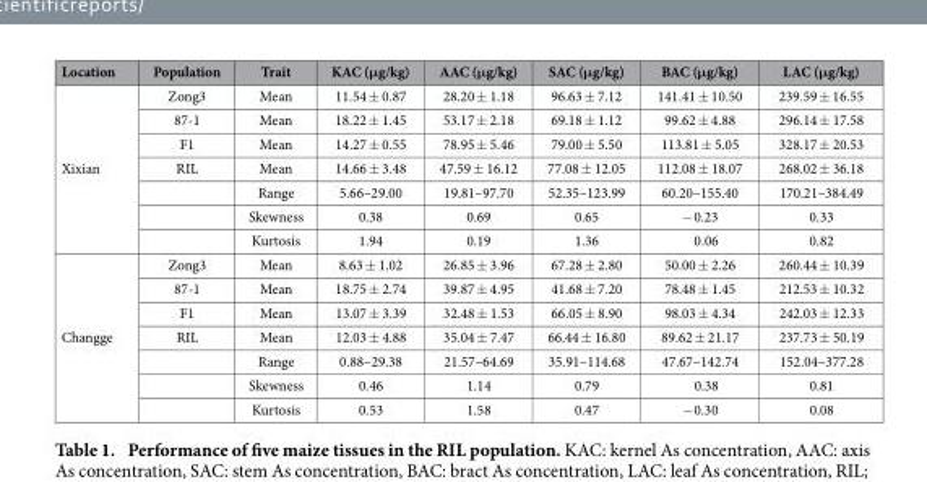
<table><thead><tr><td>Location</td><td>Population</td><td>Trait</td><td>KAC (μg/kg)</td><td>AAC (μg/kg)</td><td>SAC (μg/kg)</td><td>BAC (μg/kg)</td><td>LAC (μg/kg)</td></tr></thead><tbody><tr><td rowspan="7">Xixian</td><td>Zong3</td><td>Mean</td><td>11.54 ± 0.87</td><td>28.20 ± 1.18</td><td>96.63 ± 7.12</td><td>141.41 ± 10.50</td><td>239.59 ± 16.55</td></tr><tr><td>87-1</td><td>Mean</td><td>18.22 ± 1.45</td><td>53.17 ± 2.18</td><td>69.18 ± 1.12</td><td>99.62 ± 4.88</td><td>296.14 ± 17.58</td></tr><tr><td>F1</td><td>Mean</td><td>14.27 ± 0.55</td><td>78.95 ± 5.46</td><td>79.00 ± 5.50</td><td>113.81 ± 5.05</td><td>328.17 ± 20.53</td></tr><tr><td>RIL</td><td>Mean</td><td>14.66 ± 3.48</td><td>47.59 ± 16.12</td><td>77.08 ± 12.05</td><td>112.08 ± 18.07</td><td>268.02 ± 36.18</td></tr><tr><td></td><td>Range</td><td>5.66–29.00</td><td>19.81–97.70</td><td>52.35–123.99</td><td>60.20–155.40</td><td>170.21–384.49</td></tr><tr><td></td><td>Skewness</td><td>0.38</td><td>0.69</td><td>0.65</td><td>− 0.23</td><td>0.33</td></tr><tr><td></td><td>Kurtosis</td><td>1.94</td><td>0.19</td><td>1.36</td><td>0.06</td><td>0.82</td></tr><tr><td rowspan="7">Changge</td><td>Zong3</td><td>Mean</td><td>8.63 ± 1.02</td><td>26.85 ± 3.96</td><td>67.28 ± 2.80</td><td>50.00 ± 2.26</td><td>260.44 ± 10.39</td></tr><tr><td>87-1</td><td>Mean</td><td>18.75 ± 2.74</td><td>39.87 ± 4.95</td><td>41.68 ± 7.20</td><td>78.48 ± 1.45</td><td>212.53 ± 10.32</td></tr><tr><td>F1</td><td>Mean</td><td>13.07 ± 3.39</td><td>32.48 ± 1.53</td><td>66.05 ± 8.90</td><td>98.03 ± 4.34</td><td>242.03 ± 12.33</td></tr><tr><td>RIL</td><td>Mean</td><td>12.03 ± 4.88</td><td>35.04 ± 7.47</td><td>66.44 ± 16.80</td><td>89.62 ± 21.17</td><td>237.73 ± 50.19</td></tr><tr><td></td><td>Range</td><td>0.88–29.38</td><td>21.57–64.69</td><td>35.91–114.68</td><td>47.67–142.74</td><td>152.04–377.28</td></tr><tr><td></td><td>Skewness</td><td>0.46</td><td>1.14</td><td>0.79</td><td>0.38</td><td>0.81</td></tr><tr><td></td><td>Kurtosis</td><td>0.53</td><td>1.58</td><td>0.47</td><td>− 0.30</td><td>0.08</td></tr></tbody></table>